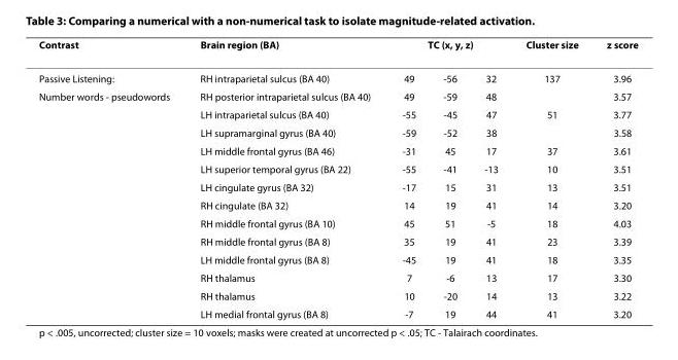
<table><thead><tr><td rowspan="2">Contrast Passive Listening:</td><td rowspan="2">Brain region (BA) RH intraparietal sulcus (BA 40)</td><td colspan="3">TC (x, y, z)</td><td rowspan="2">Cluster size 137</td><td rowspan="2">z score 3.96</td></tr><tr><td>49</td><td>-56</td><td>32</td></tr></thead><tbody><tr><td rowspan="13">Number words - pseudowords</td><td>RH posterior intraparietal sulcus (BA 40)</td><td>49</td><td>-59</td><td>48</td><td></td><td>3.57</td></tr><tr><td>LH intraparietal sulcus (BA 40)</td><td>-55</td><td>-45</td><td>47</td><td>51</td><td>3.77</td></tr><tr><td>LH supramarginal gyrus (BA 40)</td><td>-59</td><td>-52</td><td>38</td><td></td><td>3.58</td></tr><tr><td>LH middle frontal gyrus (BA 46)</td><td>-31</td><td>45</td><td>17</td><td>37</td><td>3.61</td></tr><tr><td>LH superior temporal gyrus (BA 22)</td><td>-55</td><td>-41</td><td>-13</td><td>10</td><td>3.51</td></tr><tr><td>LH cingulate gyrus (BA 32)</td><td>-17</td><td>15</td><td>31</td><td>13</td><td>3.51</td></tr><tr><td>RH cingulate (BA 32)</td><td>14</td><td>19</td><td>41</td><td>14</td><td>3.20</td></tr><tr><td>RH middle frontal gyrus (BA 10)</td><td>45</td><td>51</td><td>-5</td><td>18</td><td>4.03</td></tr><tr><td>RH middle frontal gyrus (BA 8)</td><td>35</td><td>19</td><td>41</td><td>23</td><td>3.39</td></tr><tr><td>LH middle frontal gyrus (BA 8)</td><td>-45</td><td>19</td><td>41</td><td>18</td><td>3.35</td></tr><tr><td>RH thalamus</td><td>7</td><td>-6</td><td>13</td><td>17</td><td>3.30</td></tr><tr><td>RH thalamus</td><td>10</td><td>-20</td><td>14</td><td>13</td><td>3.22</td></tr><tr><td>LH medial frontal gyrus (BA 8)</td><td>-7</td><td>19</td><td>44</td><td>41</td><td>3.20</td></tr></tbody></table>